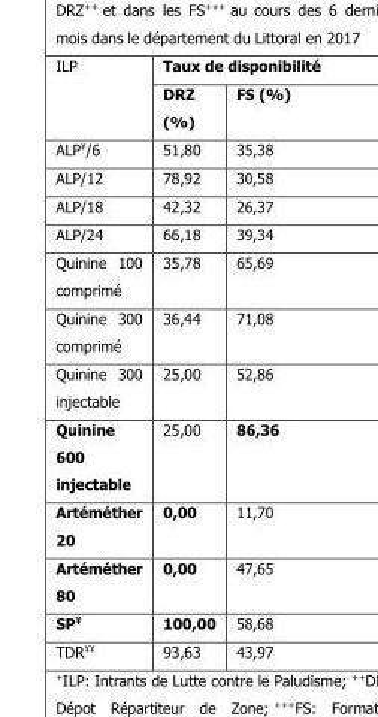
<table><thead><tr><td rowspan="2">ILP</td><td colspan="2">Taux de disponibilité</td></tr><tr><td>DRZ (%)</td><td>FS (%)</td></tr></thead><tbody><tr><td>ALP<sup>¥</sup>/6</td><td>51,80</td><td>35,38</td></tr><tr><td>ALP/12</td><td>78,92</td><td>30,58</td></tr><tr><td>ALP/18</td><td>42,32</td><td>26,37</td></tr><tr><td>ALP/24</td><td>66,18</td><td>39,34</td></tr><tr><td>Quinine 100 comprimé</td><td>35,78</td><td>65,69</td></tr><tr><td>Quinine 300 comprimé</td><td>36,44</td><td>71,08</td></tr><tr><td>Quinine 300 injectable</td><td>25,00</td><td>52,86</td></tr><tr><td>Quinine 600 injectable</td><td>25,00</td><td>86,36</td></tr><tr><td>Artéméther 20</td><td>0,00</td><td>11,70</td></tr><tr><td>Artéméther 80</td><td>0,00</td><td>47,65</td></tr><tr><td>SP<sup>¥</sup></td><td>100,00</td><td>58,68</td></tr><tr><td>TDR<sup>¥¥</sup></td><td>93,63</td><td>43,97</td></tr></tbody></table>